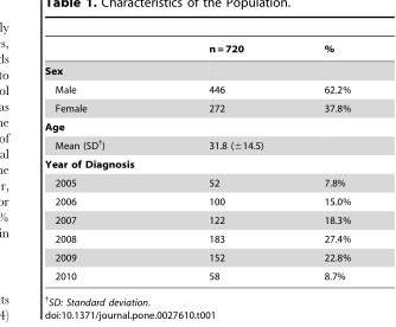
<table><thead><tr><td></td><td>n = 720</td><td>%</td></tr></thead><tbody><tr><td colspan="3">Sex</td></tr><tr><td>Male</td><td>446</td><td>62.2%</td></tr><tr><td>Female</td><td>272</td><td>37.8%</td></tr><tr><td colspan="3">Age</td></tr><tr><td>Mean (SD†)</td><td>31.8 (±14.5)</td><td></td></tr><tr><td colspan="3">Year of Diagnosis</td></tr><tr><td>2005</td><td>52</td><td>7.8%</td></tr><tr><td>2006</td><td>100</td><td>15.0%</td></tr><tr><td>2007</td><td>122</td><td>18.3%</td></tr><tr><td>2008</td><td>183</td><td>27.4%</td></tr><tr><td>2009</td><td>152</td><td>22.8%</td></tr><tr><td>2010</td><td>58</td><td>8.7%</td></tr></tbody></table>